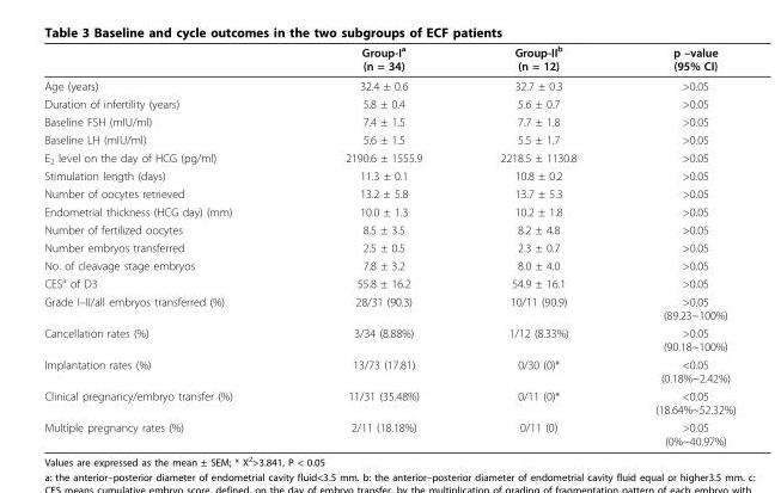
<table><thead><tr><td></td><td>Group-I<sup>a</sup> (n = 34)</td><td>Group-II<sup>b</sup> (n = 12)</td><td>p –value (95% CI)</td></tr></thead><tbody><tr><td>Age (years)</td><td>32.4 ± 0.6</td><td>32.7 ± 0.3</td><td>&gt;0.05</td></tr><tr><td>Duration of infertility (years)</td><td>5.8 ± 0.4</td><td>5.6 ± 0.7</td><td>&gt;0.05</td></tr><tr><td>Baseline FSH (mIU/ml)</td><td>7.4 ± 1.5</td><td>7.7 ± 1.8</td><td>&gt;0.05</td></tr><tr><td>Baseline LH (mIU/ml)</td><td>5.6 ± 1.5</td><td>5.5 ± 1.7</td><td>&gt;0.05</td></tr><tr><td>E<sub>2</sub> level on the day of HCG (pg/ml)</td><td>2190.6 ± 1555.9</td><td>2218.5 ± 1130.8</td><td>&gt;0.05</td></tr><tr><td>Stimulation length (days)</td><td>11.3 ± 0.1</td><td>10.8 ± 0.2</td><td>&gt;0.05</td></tr><tr><td>Number of oocytes retrieved</td><td>13.2 ± 5.8</td><td>13.7 ± 5.3</td><td>&gt;0.05</td></tr><tr><td>Endometrial thickness (HCG day) (mm)</td><td>10.0 ± 1.3</td><td>10.2 ± 1.8</td><td>&gt;0.05</td></tr><tr><td>Number of fertilized oocytes</td><td>8.5 ± 3.5</td><td>8.2 ± 4.8</td><td>&gt;0.05</td></tr><tr><td>Number embryos transferred</td><td>2.5 ± 0.5</td><td>2.3 ± 0.7</td><td>&gt;0.05</td></tr><tr><td>No. of cleavage stage embryos</td><td>7.8 ± 3.2</td><td>8.0 ± 4.0</td><td>&gt;0.05</td></tr><tr><td>CES<sup>a</sup> of D3</td><td>55.8 ± 16.2</td><td>54.9 ± 16.1</td><td>&gt;0.05</td></tr><tr><td>Grade I–II/all embryos transferred (%)</td><td>28/31 (90.3)</td><td>10/11 (90.9)</td><td>&gt;0.05 (89.23~100%)</td></tr><tr><td>Cancellation rates (%)</td><td>3/34 (8.88%)</td><td>1/12 (8.33%)</td><td>&gt;0.05 (90.18~100%)</td></tr><tr><td>Implantation rates (%)</td><td>13/73 (17.81)</td><td>0/30 (0)*</td><td>&lt;0.05 (0.18%~2.42%)</td></tr><tr><td>Clinical pregnancy/embryo transfer (%)</td><td>11/31 (35.48%)</td><td>0/11 (0)*</td><td>&lt;0.05 (18.64%~52.32%)</td></tr><tr><td>Multiple pregnancy rates (%)</td><td>2/11 (18.18%)</td><td>0/11 (0)</td><td>&gt;0.05 (0%~40.97%)</td></tr></tbody></table>